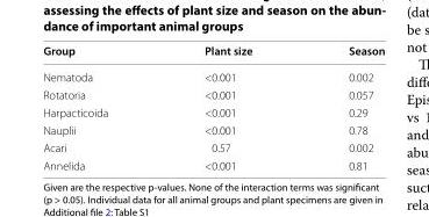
<table><thead><tr><td>Group</td><td>Plant size</td><td>Season</td></tr></thead><tbody><tr><td>Nematoda</td><td>&lt;0.001</td><td>0.002</td></tr><tr><td>Rotatoria</td><td>&lt;0.001</td><td>0.057</td></tr><tr><td>Harpacticoida</td><td>&lt;0.001</td><td>0.29</td></tr><tr><td>Nauplii</td><td>&lt;0.001</td><td>0.78</td></tr><tr><td>Acari</td><td>0.57</td><td>0.002</td></tr><tr><td>Annelida</td><td>&lt;0.001</td><td>0.81</td></tr></tbody></table>